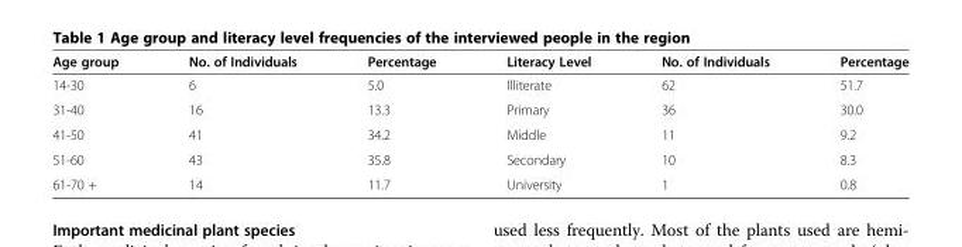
<table><thead><tr><td>Age group</td><td>No. of Individuals</td><td>Percentage</td><td>Literacy Level</td><td>No. of Individuals</td><td>Percentage</td></tr></thead><tbody><tr><td>14-30</td><td>6</td><td>5.0</td><td>Illiterate</td><td>62</td><td>51.7</td></tr><tr><td>31-40</td><td>16</td><td>13.3</td><td>Primary</td><td>36</td><td>30.0</td></tr><tr><td>41-50</td><td>41</td><td>34.2</td><td>Middle</td><td>11</td><td>9.2</td></tr><tr><td>51-60</td><td>43</td><td>35.8</td><td>Secondary</td><td>10</td><td>8.3</td></tr><tr><td>61-70 +</td><td>14</td><td>11.7</td><td>University</td><td>1</td><td>0.8</td></tr></tbody></table>